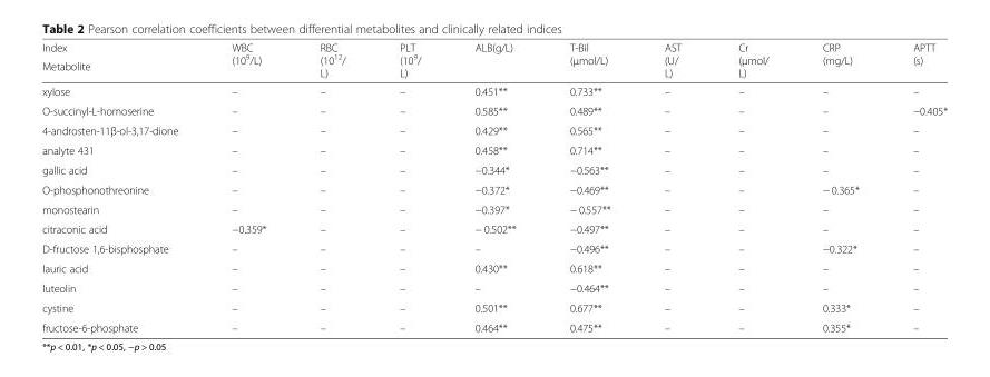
<table><thead><tr><td rowspan="2">Index Metabolite</td><td rowspan="2">WBC (10<sup>9</sup>/L)</td><td rowspan="2">RBC (10<sup>12</sup>/ L)</td><td rowspan="2">PLT (10<sup>9</sup>/ L)</td><td rowspan="2">ALB(g/L)</td><td rowspan="2">T-Bil (μmol/L)</td><td rowspan="2">AST (U/ L)</td><td rowspan="2">Cr (μmol/ L)</td><td rowspan="2">CRP (mg/L)</td><td rowspan="2">APTT (s)</td></tr><tr></tr></thead><tbody><tr><td>xylose</td><td>–</td><td>–</td><td>–</td><td>0.451**</td><td>0.733**</td><td>–</td><td>–</td><td>–</td><td>–</td></tr><tr><td>O-succinyl-L-homoserine</td><td>–</td><td>–</td><td>–</td><td>0.585**</td><td>0.489**</td><td>–</td><td>–</td><td>–</td><td>−0.405*</td></tr><tr><td>4-androsten-11β-ol-3,17-dione</td><td>–</td><td>–</td><td>–</td><td>0.429**</td><td>0.565**</td><td>–</td><td>–</td><td>–</td><td>–</td></tr><tr><td>analyte 431</td><td>–</td><td>–</td><td>–</td><td>0.458**</td><td>0.714**</td><td>–</td><td>–</td><td>–</td><td>–</td></tr><tr><td>gallic acid</td><td>–</td><td>–</td><td>–</td><td>−0.344*</td><td>−0.563**</td><td>–</td><td>–</td><td>–</td><td>–</td></tr><tr><td>O-phosphonothreonine</td><td>–</td><td>–</td><td>–</td><td>−0.372*</td><td>−0.469**</td><td>–</td><td>–</td><td>− 0.365*</td><td>–</td></tr><tr><td>monostearin</td><td>–</td><td>–</td><td>–</td><td>−0.397*</td><td>− 0.557**</td><td>–</td><td>–</td><td>–</td><td>–</td></tr><tr><td>citraconic acid</td><td>−0.359*</td><td>–</td><td>–</td><td>− 0.502**</td><td>−0.497**</td><td>–</td><td>–</td><td>–</td><td>–</td></tr><tr><td>D-fructose 1,6-bisphosphate</td><td>–</td><td>–</td><td>–</td><td>–</td><td>−0.496**</td><td>–</td><td>–</td><td>−0.322*</td><td>–</td></tr><tr><td>lauric acid</td><td>–</td><td>–</td><td>–</td><td>0.430**</td><td>0.618**</td><td>–</td><td>–</td><td>–</td><td>–</td></tr><tr><td>luteolin</td><td>–</td><td>–</td><td>–</td><td>–</td><td>−0.464**</td><td>–</td><td>–</td><td>–</td><td>–</td></tr><tr><td>cystine</td><td>–</td><td>–</td><td>–</td><td>0.501**</td><td>0.677**</td><td>–</td><td>–</td><td>0.333*</td><td>–</td></tr><tr><td>fructose-6-phosphate</td><td>–</td><td>–</td><td>–</td><td>0.464**</td><td>0.475**</td><td>–</td><td>–</td><td>0.355*</td><td>–</td></tr></tbody></table>